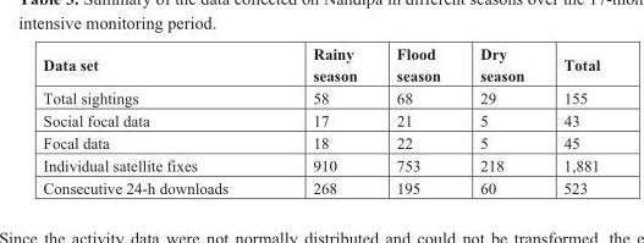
<table><thead><tr><td>Data set</td><td>Rainy season</td><td>Flood season</td><td>Dry season</td><td>Total</td></tr></thead><tbody><tr><td>Total sightings</td><td>58</td><td>68</td><td>29</td><td>155</td></tr><tr><td>Social focal data</td><td>17</td><td>21</td><td>5</td><td>43</td></tr><tr><td>Focal data</td><td>18</td><td>22</td><td>5</td><td>45</td></tr><tr><td>Individual satellite fixes</td><td>910</td><td>753</td><td>218</td><td>1,881</td></tr><tr><td>Consecutive 24-h downloads</td><td>268</td><td>195</td><td>60</td><td>523</td></tr></tbody></table>